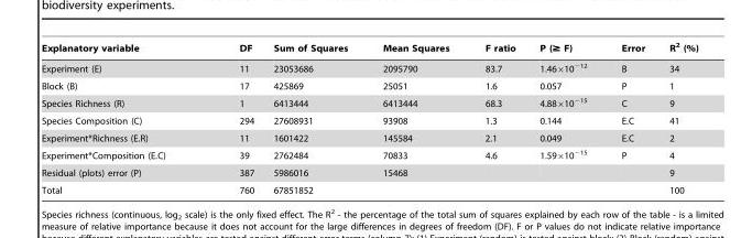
<table><thead><tr><td>Explanatory variable</td><td>DF</td><td>Sum of Squares</td><td>Mean Squares</td><td>F ratio</td><td>P (≥ F)</td><td>Error</td><td>R<sup>2</sup> (%)</td></tr></thead><tbody><tr><td>Experiment (E)</td><td>11</td><td>23053686</td><td>2095790</td><td>83.7</td><td>1.46×10<sup>−12</sup></td><td>B</td><td>34</td></tr><tr><td>Block (B)</td><td>17</td><td>425869</td><td>25051</td><td>1.6</td><td>0.057</td><td>P</td><td>1</td></tr><tr><td>Species Richness (R)</td><td>1</td><td>6413444</td><td>6413444</td><td>68.3</td><td>4.88×10<sup>−15</sup></td><td>C</td><td>9</td></tr><tr><td>Species Composition (C)</td><td>294</td><td>27608931</td><td>93908</td><td>1.3</td><td>0.144</td><td>E.C</td><td>41</td></tr><tr><td>Experiment*Richness (E.R)</td><td>11</td><td>1601422</td><td>145584</td><td>2.1</td><td>0.049</td><td>E.C</td><td>2</td></tr><tr><td>Experiment*Composition (E.C)</td><td>39</td><td>2762484</td><td>70833</td><td>4.6</td><td>1.59×10<sup>−15</sup></td><td>P</td><td>4</td></tr><tr><td>Residual (plots) error (P)</td><td>387</td><td>5986016</td><td>15468</td><td></td><td></td><td></td><td>9</td></tr><tr><td>Total</td><td>760</td><td>67851852</td><td></td><td></td><td></td><td></td><td>100</td></tr></tbody></table>